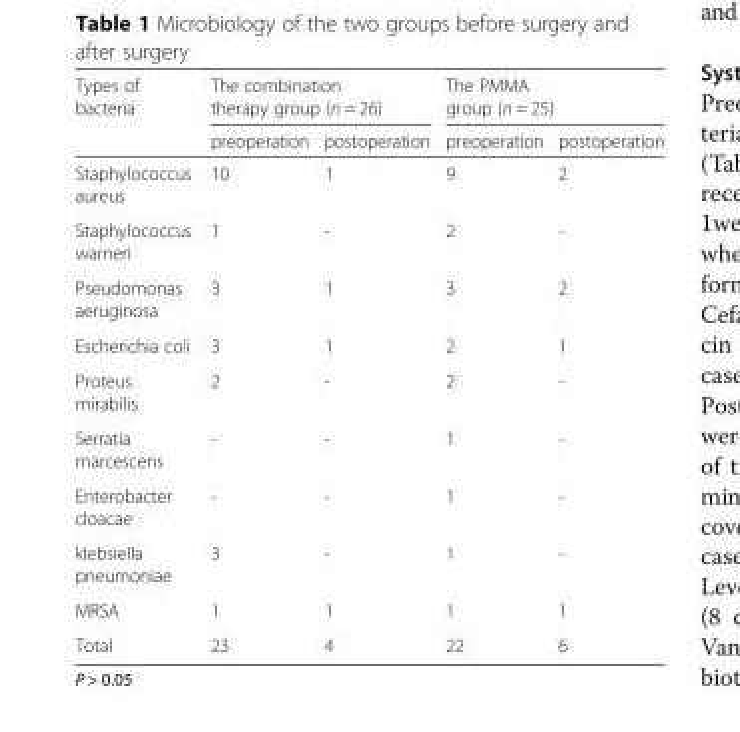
<table><thead><tr><td rowspan="2">Types of bacteria</td><td colspan="2">The combination therapy group (n = 26)</td><td colspan="2">The PMMA group (n = 25)</td></tr><tr><td>preoperation</td><td>postoperation</td><td>preoperation</td><td>postoperation</td></tr></thead><tbody><tr><td>Staphylococcus aureus</td><td>10</td><td>1</td><td>9</td><td>2</td></tr><tr><td>Staphylococcus warneri</td><td>1</td><td>-</td><td>2</td><td>-</td></tr><tr><td>Pseudomonas aeruginosa</td><td>3</td><td>1</td><td>3</td><td>2</td></tr><tr><td>Escherichia coli</td><td>3</td><td>1</td><td>2</td><td>1</td></tr><tr><td>Proteus mirabilis</td><td>2</td><td>-</td><td>2</td><td>-</td></tr><tr><td>Serratia marcescens</td><td>-</td><td>-</td><td>1</td><td>-</td></tr><tr><td>Enterobacter cloacae</td><td>-</td><td>-</td><td>1</td><td>-</td></tr><tr><td>klebsiella pneumoniae</td><td>3</td><td>-</td><td>1</td><td>-</td></tr><tr><td>MRSA</td><td>1</td><td>1</td><td>1</td><td>1</td></tr><tr><td>Total</td><td>23</td><td>4</td><td>22</td><td>6</td></tr></tbody></table>